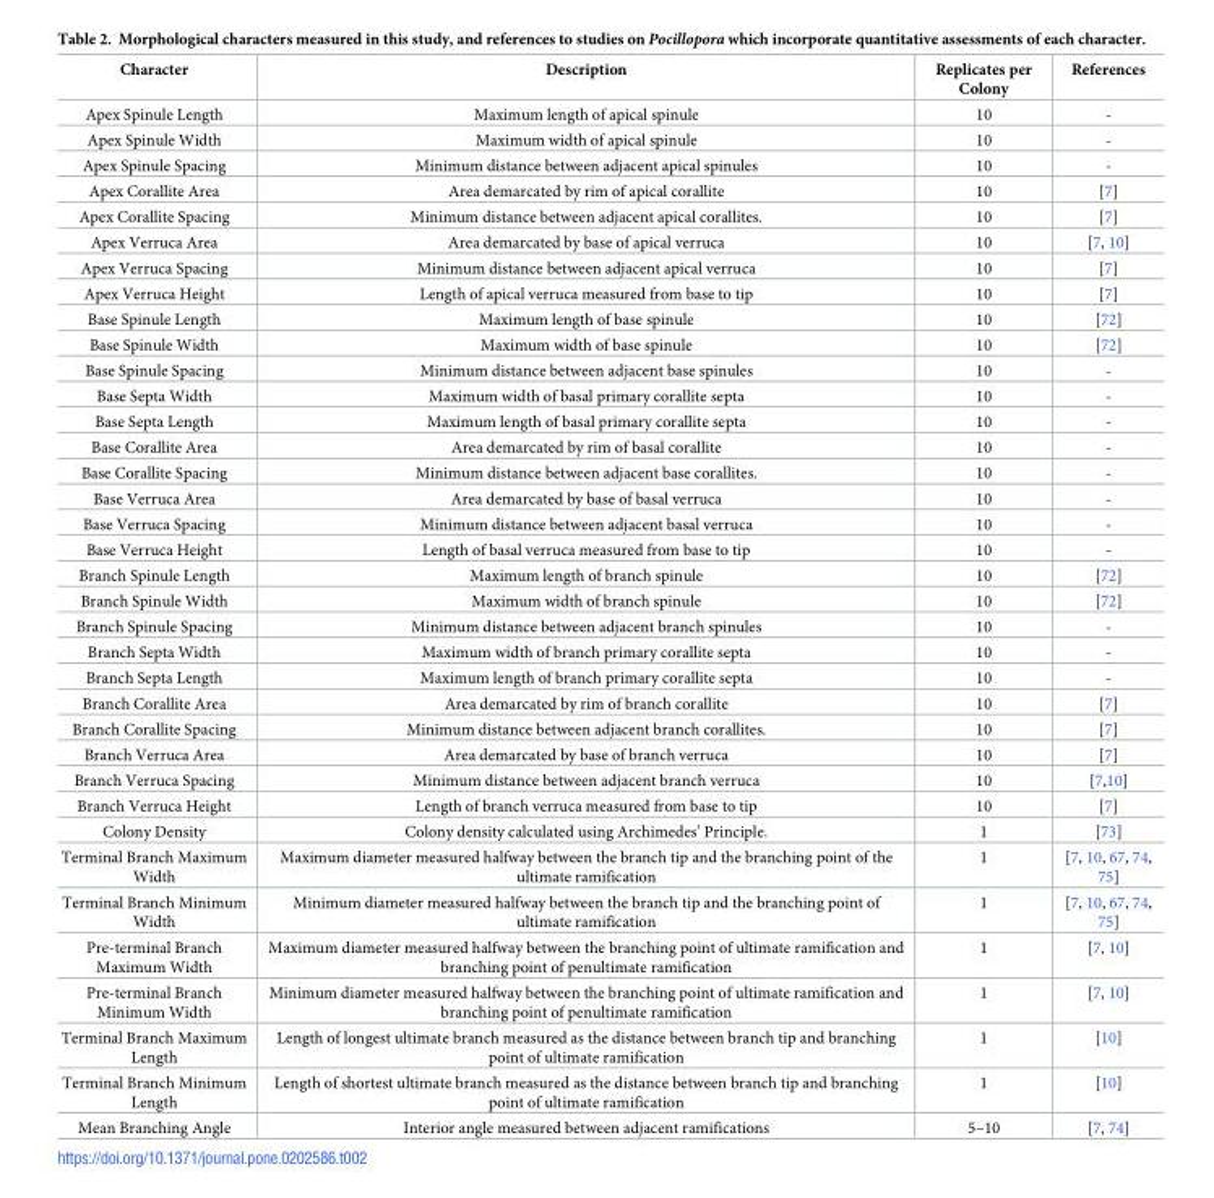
<table><thead><tr><td>Character</td><td>Description</td><td>Replicates per Colony</td><td>References</td></tr></thead><tbody><tr><td>Apex Spinule Length</td><td>Maximum length of apical spinule</td><td>10</td><td>-</td></tr><tr><td>Apex Spinule Width</td><td>Maximum width of apical spinule</td><td>10</td><td>-</td></tr><tr><td>Apex Spinule Spacing</td><td>Minimum distance between adjacent apical spinules</td><td>10</td><td>-</td></tr><tr><td>Apex Corallite Area</td><td>Area demarcated by rim of apical corallite</td><td>10</td><td>[7]</td></tr><tr><td>Apex Corallite Spacing</td><td>Minimum distance between adjacent apical corallites.</td><td>10</td><td>[7]</td></tr><tr><td>Apex Verruca Area</td><td>Area demarcated by base of apical verruca</td><td>10</td><td>[7, 10]</td></tr><tr><td>Apex Verruca Spacing</td><td>Minimum distance between adjacent apical verruca</td><td>10</td><td>[7]</td></tr><tr><td>Apex Verruca Height</td><td>Length of apical verruca measured from base to tip</td><td>10</td><td>[7]</td></tr><tr><td>Base Spinule Length</td><td>Maximum length of base spinule</td><td>10</td><td>[72]</td></tr><tr><td>Base Spinule Width</td><td>Maximum width of base spinule</td><td>10</td><td>[72]</td></tr><tr><td>Base Spinule Spacing</td><td>Minimum distance between adjacent base spinules</td><td>10</td><td>-</td></tr><tr><td>Base Septa Width</td><td>Maximum width of basal primary corallite septa</td><td>10</td><td>-</td></tr><tr><td>Base Septa Length</td><td>Maximum length of basal primary corallite septa</td><td>10</td><td>-</td></tr><tr><td>Base Corallite Area</td><td>Area demarcated by rim of basal corallite</td><td>10</td><td>-</td></tr><tr><td>Base Corallite Spacing</td><td>Minimum distance between adjacent base corallites.</td><td>10</td><td>-</td></tr><tr><td>Base Verruca Area</td><td>Area demarcated by base of basal verruca</td><td>10</td><td>-</td></tr><tr><td>Base Verruca Spacing</td><td>Minimum distance between adjacent basal verruca</td><td>10</td><td>-</td></tr><tr><td>Base Verruca Height</td><td>Length of basal verruca measured from base to tip</td><td>10</td><td>-</td></tr><tr><td>Branch Spinule Length</td><td>Maximum length of branch spinule</td><td>10</td><td>[72]</td></tr><tr><td>Branch Spinule Width</td><td>Maximum width of branch spinule</td><td>10</td><td>[72]</td></tr><tr><td>Branch Spinule Spacing</td><td>Minimum distance between adjacent branch spinules</td><td>10</td><td>-</td></tr><tr><td>Branch Septa Width</td><td>Maximum width of branch primary corallite septa</td><td>10</td><td>-</td></tr><tr><td>Branch Septa Length</td><td>Maximum length of branch primary corallite septa</td><td>10</td><td>-</td></tr><tr><td>Branch Corallite Area</td><td>Area demarcated by rim of branch corallite</td><td>10</td><td>[7]</td></tr><tr><td>Branch Corallite Spacing</td><td>Minimum distance between adjacent branch corallites.</td><td>10</td><td>[7]</td></tr><tr><td>Branch Verruca Area</td><td>Area demarcated by base of branch verruca</td><td>10</td><td>[7]</td></tr><tr><td>Branch Verruca Spacing</td><td>Minimum distance between adjacent branch verruca</td><td>10</td><td>[7,10]</td></tr><tr><td>Branch Verruca Height</td><td>Length of branch verruca measured from base to tip</td><td>10</td><td>[7]</td></tr><tr><td>Colony Density</td><td>Colony density calculated using Archimedes’ Principle.</td><td>1</td><td>[73]</td></tr><tr><td>Terminal Branch Maximum Width</td><td>Maximum diameter measured halfway between the branch tip and the branching point of the ultimate ramification</td><td>1</td><td>[7, 10, 67, 74, 75]</td></tr><tr><td>Terminal Branch Minimum Width</td><td>Minimum diameter measured halfway between the branch tip and the branching point of ultimate ramification</td><td>1</td><td>[7, 10, 67, 74, 75]</td></tr><tr><td>Pre-terminal Branch Maximum Width</td><td>Maximum diameter measured halfway between the branching point of ultimate ramification and branching point of penultimate ramification</td><td>1</td><td>[7, 10]</td></tr><tr><td>Pre-terminal Branch Minimum Width</td><td>Minimum diameter measured halfway between the branching point of ultimate ramification and branching point of penultimate ramification</td><td>1</td><td>[7, 10]</td></tr><tr><td>Terminal Branch Maximum Length</td><td>Length of longest ultimate branch measured as the distance between branch tip and branching point of ultimate ramification</td><td>1</td><td>[10]</td></tr><tr><td>Terminal Branch Minimum Length</td><td>Length of shortest ultimate branch measured as the distance between branch tip and branching point of ultimate ramification</td><td>1</td><td>[10]</td></tr><tr><td>Mean Branching Angle</td><td>Interior angle measured between adjacent ramifications</td><td>5–10</td><td>[7, 74]</td></tr></tbody></table>